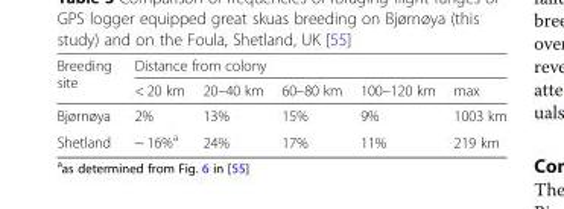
<table><thead><tr><td rowspan="2">Breeding site</td><td colspan="5">Distance from colony</td></tr><tr><td>&lt; 20 km</td><td>20–40 km</td><td>60–80 km</td><td>100–120 km</td><td>max</td></tr></thead><tbody><tr><td>Bjørnøya</td><td>2%</td><td>13%</td><td>15%</td><td>9%</td><td>1003 km</td></tr><tr><td>Shetland</td><td>~ 16%<sup>a</sup></td><td>24%</td><td>17%</td><td>11%</td><td>219 km</td></tr></tbody></table>